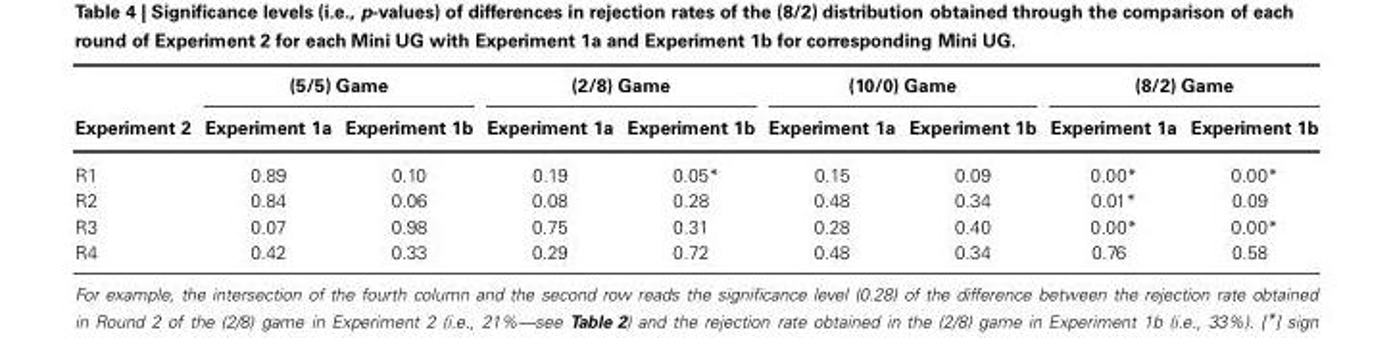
<table><thead><tr><td rowspan="2">Experiment 2</td><td colspan="2">(5/5) Game</td><td colspan="2">(2/8) Game</td><td colspan="2">(10/0) Game</td><td colspan="2">(8/2) Game</td></tr><tr><td>Experiment 1a</td><td>Experiment 1b</td><td>Experiment 1a</td><td>Experiment 1b</td><td>Experiment 1a</td><td>Experiment 1b</td><td>Experiment 1a</td><td>Experiment 1b</td></tr></thead><tbody><tr><td>R1</td><td>0.89</td><td>0.10</td><td>0.19</td><td>0.05*</td><td>0.15</td><td>0.09</td><td>0.00*</td><td>0.00*</td></tr><tr><td>R2</td><td>0.84</td><td>0.06</td><td>0.08</td><td>0.28</td><td>0.48</td><td>0.34</td><td>0.01*</td><td>0.09</td></tr><tr><td>R3</td><td>0.07</td><td>0.98</td><td>0.75</td><td>0.31</td><td>0.28</td><td>0.40</td><td>0.00*</td><td>0.00*</td></tr><tr><td>R4</td><td>0.42</td><td>0.33</td><td>0.29</td><td>0.72</td><td>0.48</td><td>0.34</td><td>0.76</td><td>0.58</td></tr></tbody></table>